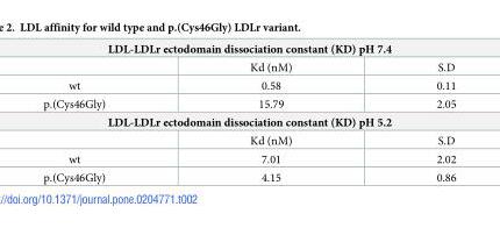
<table><tbody><tr><td colspan="3">LDL-LDLr ectodomain dissociation constant (KD) pH 7.4</td></tr><tr><td></td><td>Kd (nM)</td><td>S.D</td></tr><tr><td>wt</td><td>0.58</td><td>0.11</td></tr><tr><td>p.(Cys46Gly)</td><td>15.79</td><td>2.05</td></tr><tr><td colspan="3">LDL-LDLr ectodomain dissociation constant (KD) pH 5.2</td></tr><tr><td></td><td>Kd (nM)</td><td>S.D</td></tr><tr><td>wt</td><td>7.01</td><td>2.02</td></tr><tr><td>p.(Cys46Gly)</td><td>4.15</td><td>0.86</td></tr></tbody></table>